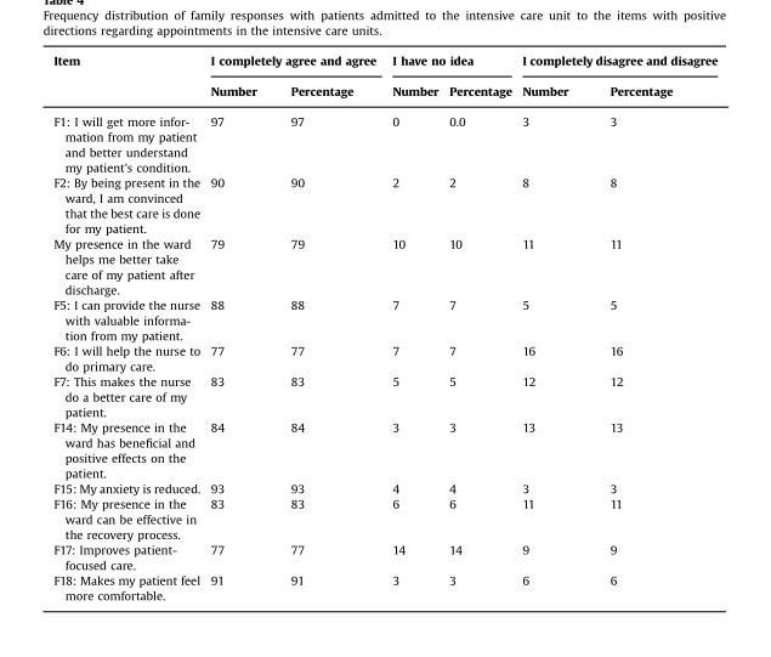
<table><thead><tr><td rowspan="2">Item</td><td colspan="2">I completely agree and agree</td><td colspan="2">I have no idea</td><td colspan="2">I completely disagree and disagree</td></tr><tr><td>Number</td><td>Percentage</td><td>Number</td><td>Percentage</td><td>Number</td><td>Percentage</td></tr></thead><tbody><tr><td>F1: I will get more infor- mation from my patient and better understand my patient&#x27;s condition.</td><td>97</td><td>97</td><td>0</td><td>0.0</td><td>3</td><td>3</td></tr><tr><td>F2: By being present in the ward, I am convinced that the best care is done for my patient.</td><td>90</td><td>90</td><td>2</td><td>2</td><td>8</td><td>8</td></tr><tr><td>My presence in the ward helps me better take care of my patient after discharge.</td><td>79</td><td>79</td><td>10</td><td>10</td><td>11</td><td>11</td></tr><tr><td>F5: I can provide the nurse with valuable informa- tion from my patient.</td><td>88</td><td>88</td><td>7</td><td>7</td><td>5</td><td>5</td></tr><tr><td>F6: I will help the nurse to do primary care.</td><td>77</td><td>77</td><td>7</td><td>7</td><td>16</td><td>16</td></tr><tr><td>F7: This makes the nurse do a better care of my patient.</td><td>83</td><td>83</td><td>5</td><td>5</td><td>12</td><td>12</td></tr><tr><td>F14: My presence in the ward has beneficial and positive effects on the patient.</td><td>84</td><td>84</td><td>3</td><td>3</td><td>13</td><td>13</td></tr><tr><td>F15: My anxiety is reduced.</td><td>93</td><td>93</td><td>4</td><td>4</td><td>3</td><td>3</td></tr><tr><td>F16: My presence in the ward can be effective in the recovery process.</td><td>83</td><td>83</td><td>6</td><td>6</td><td>11</td><td>11</td></tr><tr><td>F17: Improves patient- focused care.</td><td>77</td><td>77</td><td>14</td><td>14</td><td>9</td><td>9</td></tr><tr><td>F18: Makes my patient feel more comfortable.</td><td>91</td><td>91</td><td>3</td><td>3</td><td>6</td><td>6</td></tr></tbody></table>